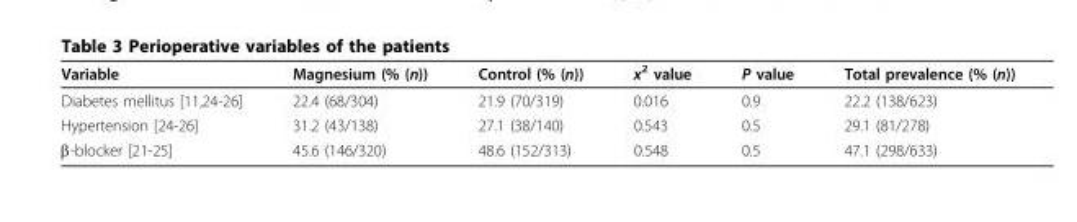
<table><thead><tr><td>Variable</td><td>Magnesium (% (n))</td><td>Control (% (n))</td><td>x<sup>2</sup> value</td><td>P value</td><td>Total prevalence (% (n))</td></tr></thead><tbody><tr><td>Diabetes mellitus [11,24-26]</td><td>22.4 (68/304)</td><td>21.9 (70/319)</td><td>0.016</td><td>0.9</td><td>22.2 (138/623)</td></tr><tr><td>Hypertension [24-26]</td><td>31.2 (43/138)</td><td>27.1 (38/140)</td><td>0.543</td><td>0.5</td><td>29.1 (81/278)</td></tr><tr><td>β-blocker [21-25]</td><td>45.6 (146/320)</td><td>48.6 (152/313)</td><td>0.548</td><td>0.5</td><td>47.1 (298/633)</td></tr></tbody></table>